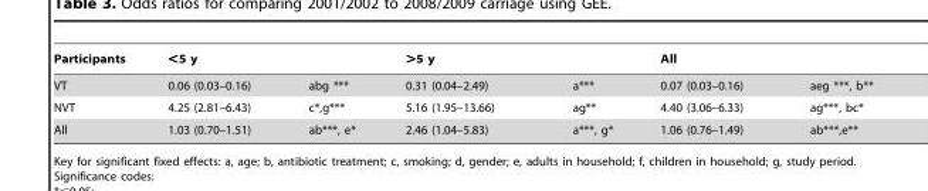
<table><thead><tr><td rowspan="2">Participants VT</td><td colspan="2">&lt;5 y</td><td colspan="2">&gt;5 y</td><td colspan="2">All</td></tr><tr><td>0.06 (0.03–0.16)</td><td>abg ***</td><td>0.31 (0.04–2.49)</td><td>a***</td><td>0.07 (0.03–0.16)</td><td>aeg ***, b**</td></tr></thead><tbody><tr><td>NVT</td><td>4.25 (2.81–6.43)</td><td>c*,g***</td><td>5.16 (1.95–13.66)</td><td>ag**</td><td>4.40 (3.06–6.33)</td><td>ag***, bc*</td></tr><tr><td>All</td><td>1.03 (0.70–1.51)</td><td>ab***, e*</td><td>2.46 (1.04–5.83)</td><td>a***, g*</td><td>1.06 (0.76–1.49)</td><td>ab***,e**</td></tr></tbody></table>